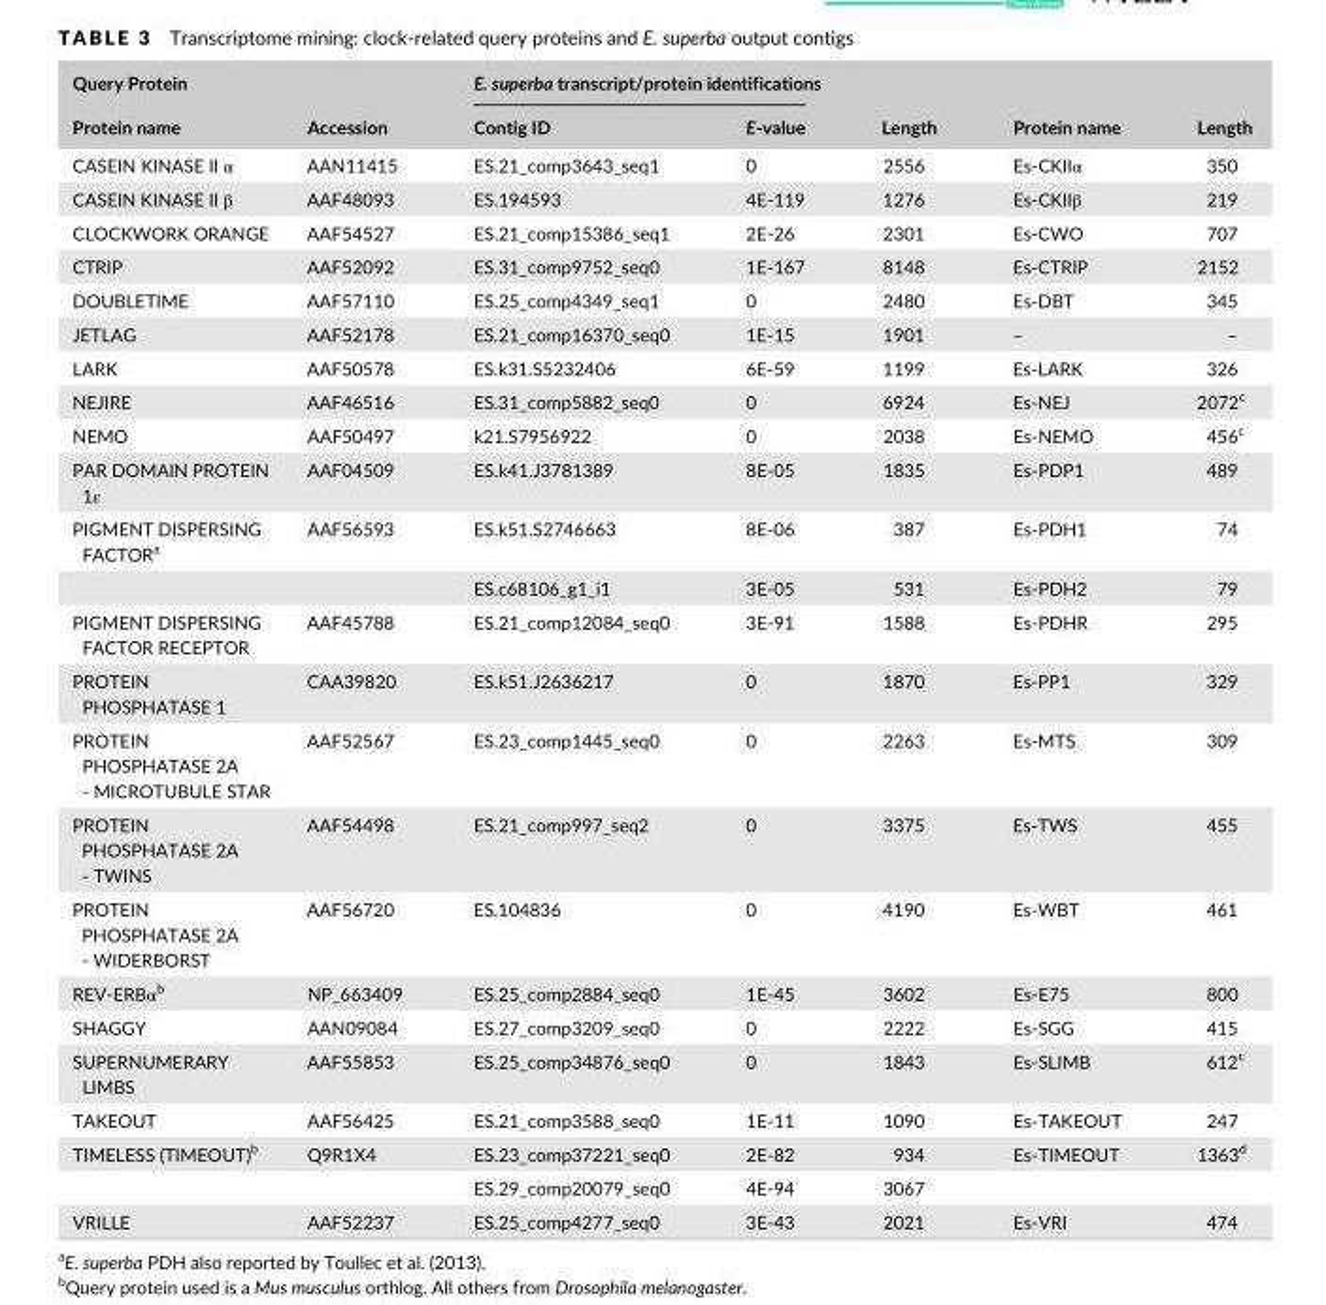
<table><thead><tr><td rowspan="2">Query Protein Protein name</td><td rowspan="2">Accession</td><td colspan="2">E. superba transcript/protein identifications</td><td rowspan="2">Length</td><td rowspan="2">Protein name</td><td rowspan="2">Length</td></tr><tr><td>Contig ID</td><td>E- value</td></tr></thead><tbody><tr><td>CASEIN KINASE II α</td><td>AAN11415</td><td>ES.21_comp3643_seq1</td><td>0</td><td>2556</td><td>Es- CKIIα</td><td>350</td></tr><tr><td>CASEIN KINASE II β</td><td>AAF48093</td><td>ES.194593</td><td>4E- 119</td><td>1276</td><td>Es- CKIIβ</td><td>219</td></tr><tr><td>CLOCKWORK ORANGE</td><td>AAF54527</td><td>ES.21_comp15386_seq1</td><td>2E- 26</td><td>2301</td><td>Es- CWO</td><td>707</td></tr><tr><td>CTRIP</td><td>AAF52092</td><td>ES.31_comp9752_seq0</td><td>1E- 167</td><td>8148</td><td>Es- CTRIP</td><td>2152</td></tr><tr><td>DOUBLETIME</td><td>AAF57110</td><td>ES.25_comp4349_seq1</td><td>0</td><td>2480</td><td>Es- DBT</td><td>345</td></tr><tr><td>JETLAG</td><td>AAF52178</td><td>ES.21_comp16370_seq0</td><td>1E- 15</td><td>1901</td><td>–</td><td>–</td></tr><tr><td>LARK</td><td>AAF50578</td><td>ES.k31.S5232406</td><td>6E- 59</td><td>1199</td><td>Es- LARK</td><td>326</td></tr><tr><td>NEJIRE</td><td>AAF46516</td><td>ES.31_comp5882_seq0</td><td>0</td><td>6924</td><td>Es- NEJ</td><td>2072<sup>c</sup></td></tr><tr><td>NEMO</td><td>AAF50497</td><td>k21.S7956922</td><td>0</td><td>2038</td><td>Es- NEMO</td><td>456<sup>c</sup></td></tr><tr><td>PAR DOMAIN PROTEIN 1ε</td><td>AAF04509</td><td>ES.k41.J3781389</td><td>8E- 05</td><td>1835</td><td>Es- PDP1</td><td>489</td></tr><tr><td rowspan="2">PIGMENT DISPERSING FACTOR<sup>a</sup></td><td>AAF56593</td><td>ES.k51.S2746663</td><td>8E- 06</td><td>387</td><td>Es- PDH1</td><td>74</td></tr><tr><td></td><td>ES.c68106_g1_i1</td><td>3E- 05</td><td>531</td><td>Es- PDH2</td><td>79</td></tr><tr><td>PIGMENT DISPERSING FACTOR RECEPTOR</td><td>AAF45788</td><td>ES.21_comp12084_seq0</td><td>3E- 91</td><td>1588</td><td>Es- PDHR</td><td>295</td></tr><tr><td>PROTEIN PHOSPHATASE 1</td><td>CAA39820</td><td>ES.k51.J2636217</td><td>0</td><td>1870</td><td>Es- PP1</td><td>329</td></tr><tr><td>PROTEIN PHOSPHATASE 2A - MICROTUBULE STAR</td><td>AAF52567</td><td>ES.23_comp1445_seq0</td><td>0</td><td>2263</td><td>Es- MTS</td><td>309</td></tr><tr><td>PROTEIN PHOSPHATASE 2A - TWINS</td><td>AAF54498</td><td>ES.21_comp997_seq2</td><td>0</td><td>3375</td><td>Es- TWS</td><td>455</td></tr><tr><td>PROTEIN PHOSPHATASE 2A - WIDERBORST</td><td>AAF56720</td><td>ES.104836</td><td>0</td><td>4190</td><td>Es- WBT</td><td>461</td></tr><tr><td>REV- ERBα<sup>b</sup></td><td>NP_663409</td><td>ES.25_comp2884_seq0</td><td>1E- 45</td><td>3602</td><td>Es- E75</td><td>800</td></tr><tr><td>SHAGGY</td><td>AAN09084</td><td>ES.27_comp3209_seq0</td><td>0</td><td>2222</td><td>Es- SGG</td><td>415</td></tr><tr><td>SUPERNUMERARY LIMBS</td><td>AAF55853</td><td>ES.25_comp34876_seq0</td><td>0</td><td>1843</td><td>Es- SLIMB</td><td>612<sup>c</sup></td></tr><tr><td>TAKEOUT</td><td>AAF56425</td><td>ES.21_comp3588_seq0</td><td>1E- 11</td><td>1090</td><td>Es- TAKEOUT</td><td>247</td></tr><tr><td rowspan="2">TIMELESS (TIMEOUT)<sup>b</sup></td><td>Q9R1X4</td><td>ES.23_comp37221_seq0</td><td>2E- 82</td><td>934</td><td>Es- TIMEOUT</td><td>1363<sup>d</sup></td></tr><tr><td></td><td>ES.29_comp20079_seq0</td><td>4E- 94</td><td>3067</td><td></td><td></td></tr><tr><td>VRILLE</td><td>AAF52237</td><td>ES.25_comp4277_seq0</td><td>3E- 43</td><td>2021</td><td>Es- VRI</td><td>474</td></tr></tbody></table>